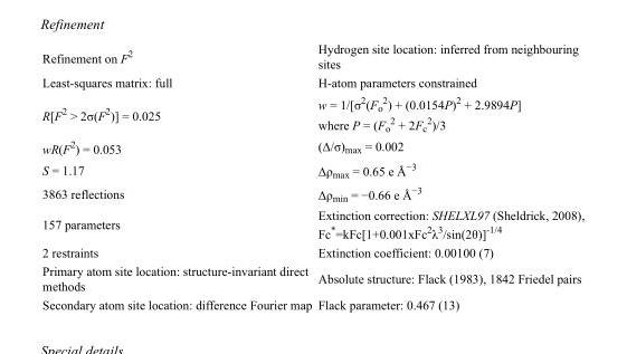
<table><tbody><tr><td>Refinement on F<sup>2</sup></td><td>Hydrogen site location: inferred from neighbouring sites</td></tr><tr><td>Least-squares matrix: full</td><td>H-atom parameters constrained</td></tr><tr><td>R[F<sup>2</sup> &gt; 2σ(F<sup>2</sup>)] = 0.025</td><td>w = 1/[σ<sup>2</sup>(F<sub>o</sub> <sup>2</sup>) + (0.0154P)<sup>2</sup> + 2.9894P] where P = (F<sub>o</sub> <sup>2</sup> + 2F<sub>c</sub> <sup>2</sup>)/3</td></tr><tr><td>wR(F<sup>2</sup>) = 0.053</td><td>(Δ/σ)<sub>max</sub> = 0.002</td></tr><tr><td>S = 1.17</td><td>Δρ<sub>max</sub> = 0.65 e Å<sup>−3</sup></td></tr><tr><td>3863 reflections</td><td>Δρ<sub>min</sub> = −0.66 e Å<sup>−3</sup></td></tr><tr><td>157 parameters</td><td>Extinction correction: SHELXL97 (Sheldrick, 2008), Fc*=kFc[1+0.001xFc<sup>2</sup>λ<sup>3</sup>/sin(2θ)]<sup>-1/4</sup></td></tr><tr><td>2 restraints</td><td>Extinction coefficient: 0.00100 (7)</td></tr><tr><td>Primary atom site location: structure-invariant direct methods</td><td>Absolute structure: Flack (1983), 1842 Friedel pairs</td></tr><tr><td>Secondary atom site location: difference Fourier map</td><td>Flack parameter: 0.467 (13)</td></tr></tbody></table>